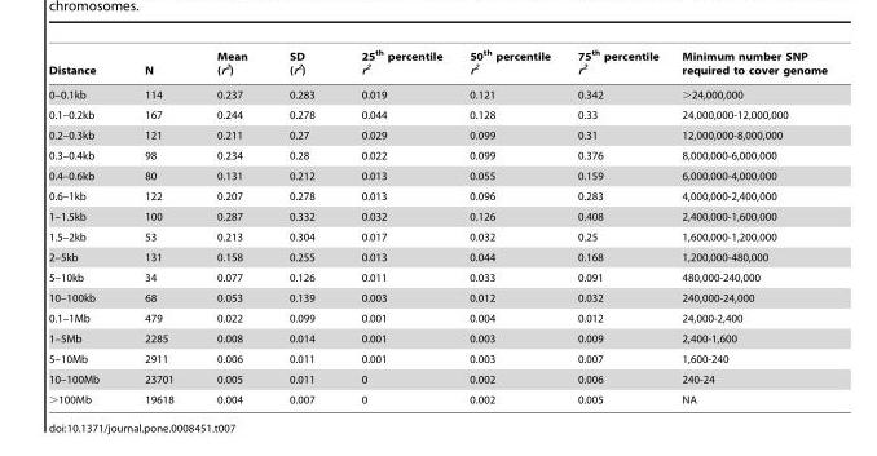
<table><thead><tr><td>Distance</td><td>N</td><td>Mean (r<sup>2</sup>)</td><td>SD (r<sup>2</sup>)</td><td>25<sup>th</sup> percentile r<sup>2</sup></td><td>50<sup>th</sup> percentile r<sup>2</sup></td><td>75<sup>th</sup> percentile r<sup>2</sup></td><td>Minimum number SNP required to cover genome</td></tr></thead><tbody><tr><td>0–0.1kb</td><td>114</td><td>0.237</td><td>0.283</td><td>0.019</td><td>0.121</td><td>0.342</td><td>&gt;24,000,000</td></tr><tr><td>0.1–0.2kb</td><td>167</td><td>0.244</td><td>0.278</td><td>0.044</td><td>0.128</td><td>0.33</td><td>24,000,000-12,000,000</td></tr><tr><td>0.2–0.3kb</td><td>121</td><td>0.211</td><td>0.27</td><td>0.029</td><td>0.099</td><td>0.31</td><td>12,000,000-8,000,000</td></tr><tr><td>0.3–0.4kb</td><td>98</td><td>0.234</td><td>0.28</td><td>0.022</td><td>0.099</td><td>0.376</td><td>8,000,000-6,000,000</td></tr><tr><td>0.4–0.6kb</td><td>80</td><td>0.131</td><td>0.212</td><td>0.013</td><td>0.055</td><td>0.159</td><td>6,000,000-4,000,000</td></tr><tr><td>0.6–1kb</td><td>122</td><td>0.207</td><td>0.278</td><td>0.013</td><td>0.096</td><td>0.283</td><td>4,000,000-2,400,000</td></tr><tr><td>1–1.5kb</td><td>100</td><td>0.287</td><td>0.332</td><td>0.032</td><td>0.126</td><td>0.408</td><td>2,400,000-1,600,000</td></tr><tr><td>1.5–2kb</td><td>53</td><td>0.213</td><td>0.304</td><td>0.017</td><td>0.032</td><td>0.25</td><td>1,600,000-1,200,000</td></tr><tr><td>2–5kb</td><td>131</td><td>0.158</td><td>0.255</td><td>0.013</td><td>0.044</td><td>0.168</td><td>1,200,000-480,000</td></tr><tr><td>5–10kb</td><td>34</td><td>0.077</td><td>0.126</td><td>0.011</td><td>0.033</td><td>0.091</td><td>480,000-240,000</td></tr><tr><td>10–100kb</td><td>68</td><td>0.053</td><td>0.139</td><td>0.003</td><td>0.012</td><td>0.032</td><td>240,000-24,000</td></tr><tr><td>0.1–1Mb</td><td>479</td><td>0.022</td><td>0.099</td><td>0.001</td><td>0.004</td><td>0.012</td><td>24,000-2,400</td></tr><tr><td>1–5Mb</td><td>2285</td><td>0.008</td><td>0.014</td><td>0.001</td><td>0.003</td><td>0.009</td><td>2,400-1,600</td></tr><tr><td>5–10Mb</td><td>2911</td><td>0.006</td><td>0.011</td><td>0.001</td><td>0.003</td><td>0.007</td><td>1,600-240</td></tr><tr><td>10–100Mb</td><td>23701</td><td>0.005</td><td>0.011</td><td>0</td><td>0.002</td><td>0.006</td><td>240-24</td></tr><tr><td>&gt;100Mb</td><td>19618</td><td>0.004</td><td>0.007</td><td>0</td><td>0.002</td><td>0.005</td><td>NA</td></tr></tbody></table>